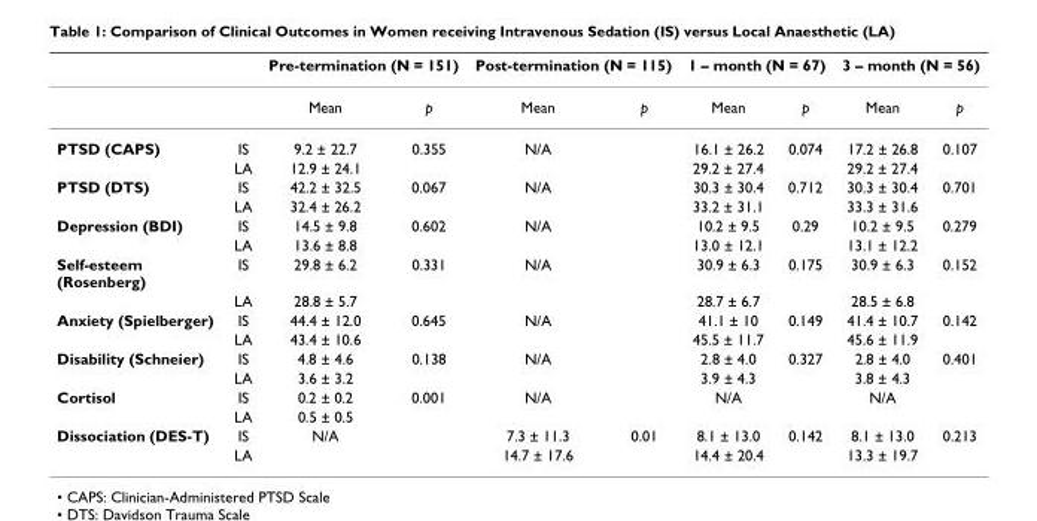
<table><thead><tr><td rowspan="2"></td><td rowspan="2"></td><td colspan="2">Pre-termination (N = 151)</td><td colspan="2">Post-termination (N = 115)</td><td colspan="2">1 – month (N = 67)</td><td colspan="2">3 – month (N = 56)</td></tr><tr><td>Mean</td><td>p</td><td>Mean</td><td>p</td><td>Mean</td><td>p</td><td>Mean</td><td>p</td></tr></thead><tbody><tr><td rowspan="2">PTSD (CAPS)</td><td>IS</td><td>9.2 ± 22.7</td><td>0.355</td><td>N/A</td><td></td><td>16.1 ± 26.2</td><td>0.074</td><td>17.2 ± 26.8</td><td>0.107</td></tr><tr><td>LA</td><td>12.9 ± 24.1</td><td></td><td></td><td></td><td>29.2 ± 27.4</td><td></td><td>29.2 ± 27.4</td><td></td></tr><tr><td rowspan="2">PTSD (DTS)</td><td>IS</td><td>42.2 ± 32.5</td><td>0.067</td><td>N/A</td><td></td><td>30.3 ± 30.4</td><td>0.712</td><td>30.3 ± 30.4</td><td>0.701</td></tr><tr><td>LA</td><td>32.4 ± 26.2</td><td></td><td></td><td></td><td>33.2 ± 31.1</td><td></td><td>33.3 ± 31.6</td><td></td></tr><tr><td rowspan="2">Depression (BDI)</td><td>IS</td><td>14.5 ± 9.8</td><td>0.602</td><td>N/A</td><td></td><td>10.2 ± 9.5</td><td>0.29</td><td>10.2 ± 9.5</td><td>0.279</td></tr><tr><td>LA</td><td>13.6 ± 8.8</td><td></td><td></td><td></td><td>13.0 ± 12.1</td><td></td><td>13.1 ± 12.2</td><td></td></tr><tr><td rowspan="2">Self-esteem (Rosenberg)</td><td>IS</td><td>29.8 ± 6.2</td><td>0.331</td><td>N/A</td><td></td><td>30.9 ± 6.3</td><td>0.175</td><td>30.9 ± 6.3</td><td>0.152</td></tr><tr><td>LA</td><td>28.8 ± 5.7</td><td></td><td></td><td></td><td>28.7 ± 6.7</td><td></td><td>28.5 ± 6.8</td><td></td></tr><tr><td rowspan="2">Anxiety (Spielberger)</td><td>IS</td><td>44.4 ± 12.0</td><td>0.645</td><td>N/A</td><td></td><td>41.1 ± 10</td><td>0.149</td><td>41.4 ± 10.7</td><td>0.142</td></tr><tr><td>LA</td><td>43.4 ± 10.6</td><td></td><td></td><td></td><td>45.5 ± 11.7</td><td></td><td>45.6 ± 11.9</td><td></td></tr><tr><td rowspan="2">Disability (Schneier)</td><td>IS</td><td>4.8 ± 4.6</td><td>0.138</td><td>N/A</td><td></td><td>2.8 ± 4.0</td><td>0.327</td><td>2.8 ± 4.0</td><td>0.401</td></tr><tr><td>LA</td><td>3.6 ± 3.2</td><td></td><td></td><td></td><td>3.9 ± 4.3</td><td></td><td>3.8 ± 4.3</td><td></td></tr><tr><td rowspan="2">Cortisol</td><td>IS</td><td>0.2 ± 0.2</td><td>0.001</td><td>N/A</td><td></td><td>N/A</td><td></td><td>N/A</td><td></td></tr><tr><td>LA</td><td>0.5 ± 0.5</td><td></td><td></td><td></td><td></td><td></td><td></td><td></td></tr><tr><td rowspan="2">Dissociation (DES-T)</td><td>IS</td><td>N/A</td><td></td><td>7.3 ± 11.3</td><td>0.01</td><td>8.1 ± 13.0</td><td>0.142</td><td>8.1 ± 13.0</td><td>0.213</td></tr><tr><td>LA</td><td></td><td></td><td>14.7 ± 17.6</td><td></td><td>14.4 ± 20.4</td><td></td><td>13.3 ± 19.7</td><td></td></tr></tbody></table>